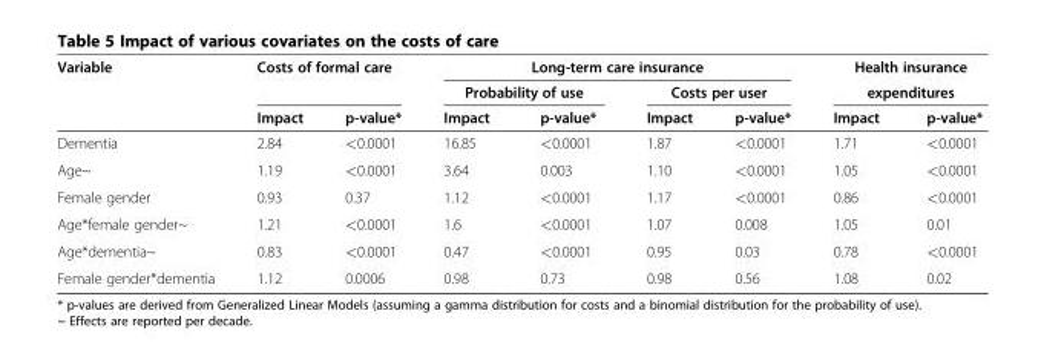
<table><thead><tr><td rowspan="3">Variable</td><td colspan="2">Costs of formal care</td><td colspan="4">Long-term care insurance</td><td rowspan="2" colspan="2">Health insurance expenditures</td></tr><tr><td rowspan="2">Impact</td><td rowspan="2">p-value*</td><td colspan="2">Probability of use</td><td colspan="2">Costs per user</td></tr><tr><td>Impact</td><td>p-value*</td><td>Impact</td><td>p-value*</td><td>Impact</td><td>p-value*</td></tr></thead><tbody><tr><td>Dementia</td><td>2.84</td><td>&lt;0.0001</td><td>16.85</td><td>&lt;0.0001</td><td>1.87</td><td>&lt;0.0001</td><td>1.71</td><td>&lt;0.0001</td></tr><tr><td>Age~</td><td>1.19</td><td>&lt;0.0001</td><td>3.64</td><td>0.003</td><td>1.10</td><td>&lt;0.0001</td><td>1.05</td><td>&lt;0.0001</td></tr><tr><td>Female gender</td><td>0.93</td><td>0.37</td><td>1.12</td><td>&lt;0.0001</td><td>1.17</td><td>&lt;0.0001</td><td>0.86</td><td>&lt;0.0001</td></tr><tr><td>Age*female gender~</td><td>1.21</td><td>&lt;0.0001</td><td>1.6</td><td>&lt;0.0001</td><td>1.07</td><td>0.008</td><td>1.05</td><td>0.01</td></tr><tr><td>Age*dementia~</td><td>0.83</td><td>&lt;0.0001</td><td>0.47</td><td>&lt;0.0001</td><td>0.95</td><td>0.03</td><td>0.78</td><td>&lt;0.0001</td></tr><tr><td>Female gender*dementia</td><td>1.12</td><td>0.0006</td><td>0.98</td><td>0.73</td><td>0.98</td><td>0.56</td><td>1.08</td><td>0.02</td></tr></tbody></table>